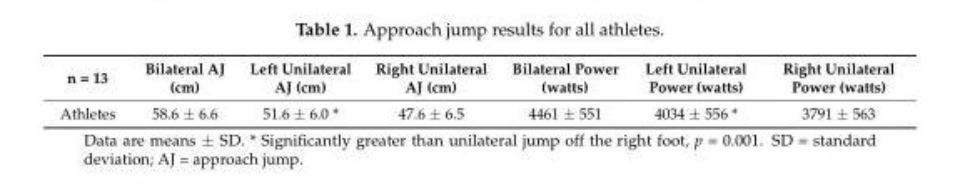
<table><thead><tr><td>n = 13</td><td>Bilateral AJ (cm)</td><td>Left Unilateral AJ (cm)</td><td>Right Unilateral AJ (cm)</td><td>Bilateral Power (watts)</td><td>Left Unilateral Power (watts)</td><td>Right Unilateral Power (watts)</td></tr></thead><tbody><tr><td>Athletes</td><td>58.6 ± 6.6</td><td>51.6 ± 6.0 *</td><td>47.6 ± 6.5</td><td>4461 ± 551</td><td>4034 ± 556 *</td><td>3791 ± 563</td></tr></tbody></table>